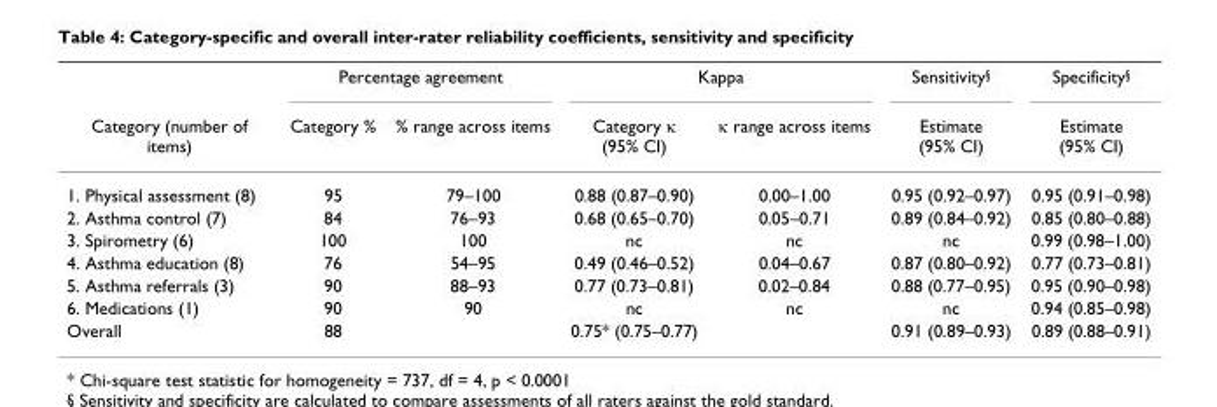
<table><thead><tr><td rowspan="2">Category (number of items)</td><td colspan="2">Percentage agreement</td><td colspan="2">Kappa</td><td rowspan="2">Sensitivity<sup>§</sup> Estimate (95% CI)</td><td rowspan="2">Specificity<sup>§</sup> Estimate (95% CI)</td></tr><tr><td>Category %</td><td>% range across items</td><td>Category κ (95% CI)</td><td>κ range across items</td></tr></thead><tbody><tr><td>1. Physical assessment (8)</td><td>95</td><td>79–100</td><td>0.88 (0.87–0.90)</td><td>0.00–1.00</td><td>0.95 (0.92–0.97)</td><td>0.95 (0.91–0.98)</td></tr><tr><td>2. Asthma control (7)</td><td>84</td><td>76–93</td><td>0.68 (0.65–0.70)</td><td>0.05–0.71</td><td>0.89 (0.84–0.92)</td><td>0.85 (0.80–0.88)</td></tr><tr><td>3. Spirometry (6)</td><td>100</td><td>100</td><td>nc</td><td>nc</td><td>nc</td><td>0.99 (0.98–1.00)</td></tr><tr><td>4. Asthma education (8)</td><td>76</td><td>54–95</td><td>0.49 (0.46–0.52)</td><td>0.04–0.67</td><td>0.87 (0.80–0.92)</td><td>0.77 (0.73–0.81)</td></tr><tr><td>5. Asthma referrals (3)</td><td>90</td><td>88–93</td><td>0.77 (0.73–0.81)</td><td>0.02–0.84</td><td>0.88 (0.77–0.95)</td><td>0.95 (0.90–0.98)</td></tr><tr><td>6. Medications (1)</td><td>90</td><td>90</td><td>nc</td><td>nc</td><td>nc</td><td>0.94 (0.85–0.98)</td></tr><tr><td>Overall</td><td>88</td><td></td><td>0.75* (0.75–0.77)</td><td></td><td>0.91 (0.89–0.93)</td><td>0.89 (0.88–0.91)</td></tr></tbody></table>